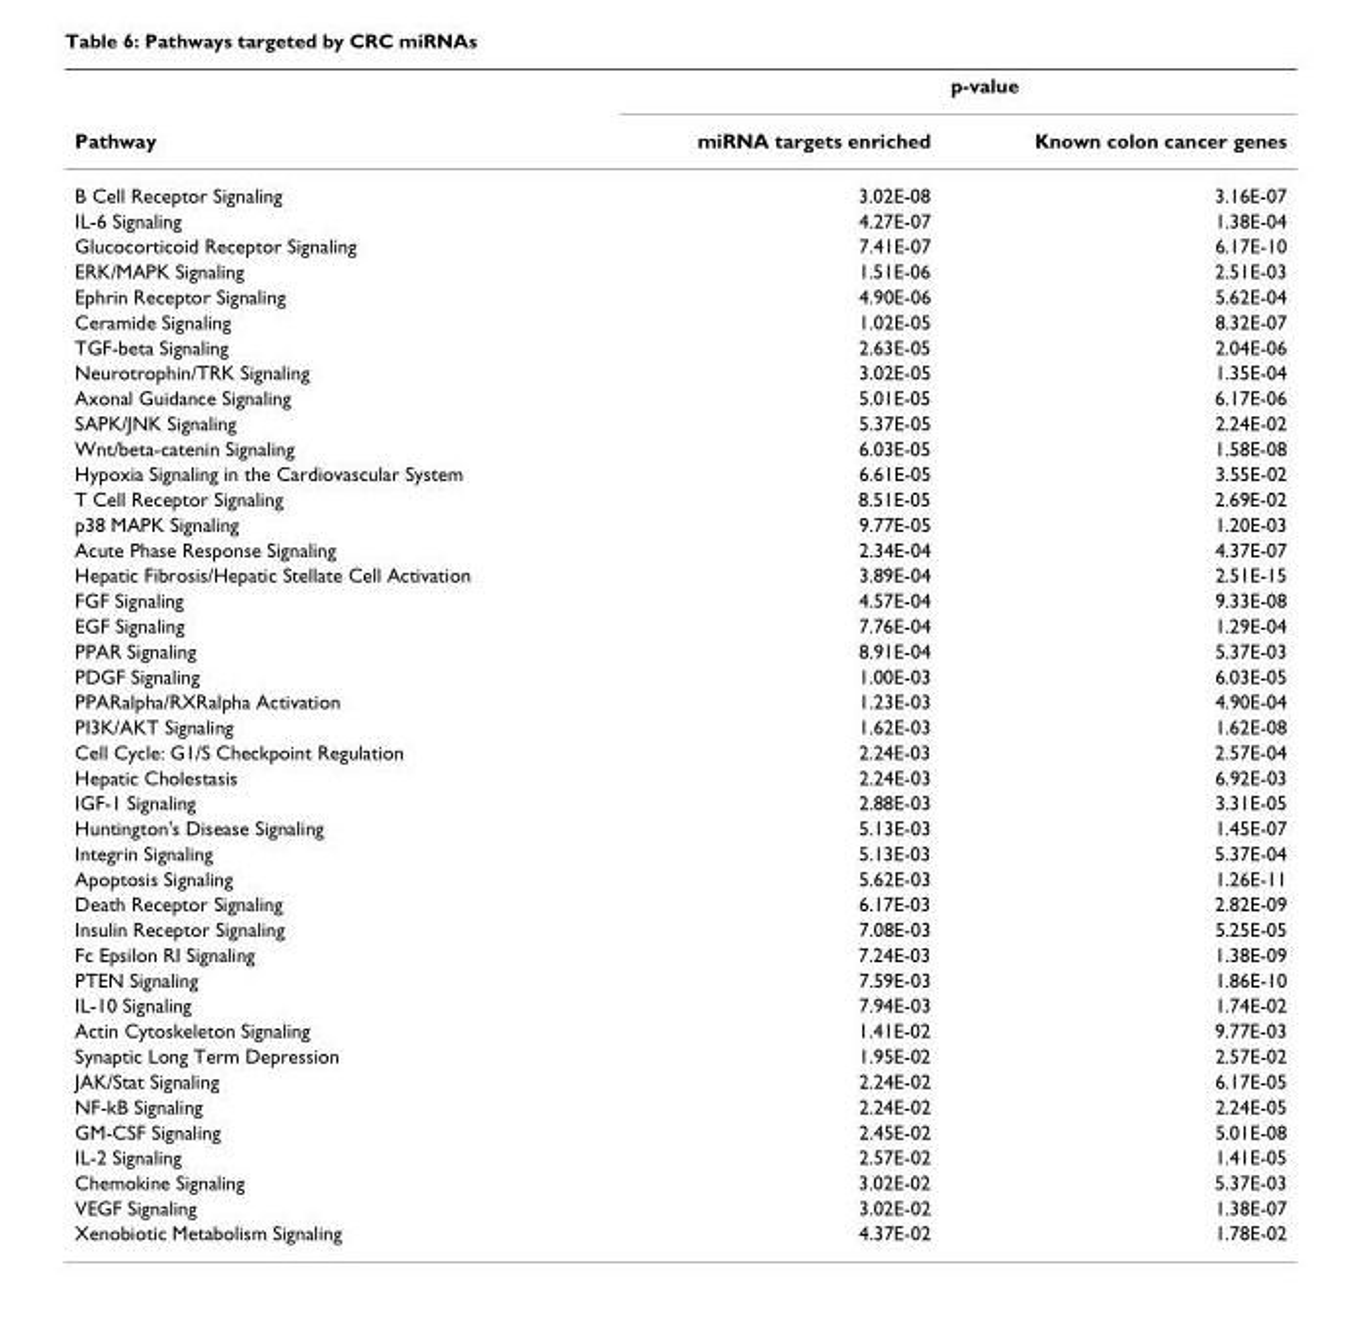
<table><thead><tr><td rowspan="2">Pathway</td><td rowspan="2">miRNA targets enriched</td><td rowspan="2">p-value Known colon cancer genes</td></tr><tr></tr></thead><tbody><tr><td>B Cell Receptor Signaling</td><td>3.02E-08</td><td>3.16E-07</td></tr><tr><td>IL-6 Signaling</td><td>4.27E-07</td><td>1.38E-04</td></tr><tr><td>Glucocorticoid Receptor Signaling</td><td>7.41E-07</td><td>6.17E-10</td></tr><tr><td>ERK/MAPK Signaling</td><td>1.51E-06</td><td>2.51E-03</td></tr><tr><td>Ephrin Receptor Signaling</td><td>4.90E-06</td><td>5.62E-04</td></tr><tr><td>Ceramide Signaling</td><td>1.02E-05</td><td>8.32E-07</td></tr><tr><td>TGF-beta Signaling</td><td>2.63E-05</td><td>2.04E-06</td></tr><tr><td>Neurotrophin/TRK Signaling</td><td>3.02E-05</td><td>1.35E-04</td></tr><tr><td>Axonal Guidance Signaling</td><td>5.01E-05</td><td>6.17E-06</td></tr><tr><td>SAPK/JNK Signaling</td><td>5.37E-05</td><td>2.24E-02</td></tr><tr><td>Wnt/beta-catenin Signaling</td><td>6.03E-05</td><td>1.58E-08</td></tr><tr><td>Hypoxia Signaling in the Cardiovascular System</td><td>6.61E-05</td><td>3.55E-02</td></tr><tr><td>T Cell Receptor Signaling</td><td>8.51E-05</td><td>2.69E-02</td></tr><tr><td>p38 MAPK Signaling</td><td>9.77E-05</td><td>1.20E-03</td></tr><tr><td>Acute Phase Response Signaling</td><td>2.34E-04</td><td>4.37E-07</td></tr><tr><td>Hepatic Fibrosis/Hepatic Stellate Cell Activation</td><td>3.89E-04</td><td>2.51E-15</td></tr><tr><td>FGF Signaling</td><td>4.57E-04</td><td>9.33E-08</td></tr><tr><td>EGF Signaling</td><td>7.76E-04</td><td>1.29E-04</td></tr><tr><td>PPAR Signaling</td><td>8.91E-04</td><td>5.37E-03</td></tr><tr><td>PDGF Signaling</td><td>1.00E-03</td><td>6.03E-05</td></tr><tr><td>PPARalpha/RXRalpha Activation</td><td>1.23E-03</td><td>4.90E-04</td></tr><tr><td>PI3K/AKT Signaling</td><td>1.62E-03</td><td>1.62E-08</td></tr><tr><td>Cell Cycle: G1/S Checkpoint Regulation</td><td>2.24E-03</td><td>2.57E-04</td></tr><tr><td>Hepatic Cholestasis</td><td>2.24E-03</td><td>6.92E-03</td></tr><tr><td>IGF-1 Signaling</td><td>2.88E-03</td><td>3.31E-05</td></tr><tr><td>Huntington&#x27;s Disease Signaling</td><td>5.13E-03</td><td>1.45E-07</td></tr><tr><td>Integrin Signaling</td><td>5.13E-03</td><td>5.37E-04</td></tr><tr><td>Apoptosis Signaling</td><td>5.62E-03</td><td>1.26E-11</td></tr><tr><td>Death Receptor Signaling</td><td>6.17E-03</td><td>2.82E-09</td></tr><tr><td>Insulin Receptor Signaling</td><td>7.08E-03</td><td>5.25E-05</td></tr><tr><td>Fc Epsilon RI Signaling</td><td>7.24E-03</td><td>1.38E-09</td></tr><tr><td>PTEN Signaling</td><td>7.59E-03</td><td>1.86E-10</td></tr><tr><td>IL-10 Signaling</td><td>7.94E-03</td><td>1.74E-02</td></tr><tr><td>Actin Cytoskeleton Signaling</td><td>1.41E-02</td><td>9.77E-03</td></tr><tr><td>Synaptic Long Term Depression</td><td>1.95E-02</td><td>2.57E-02</td></tr><tr><td>JAK/Stat Signaling</td><td>2.24E-02</td><td>6.17E-05</td></tr><tr><td>NF-kB Signaling</td><td>2.24E-02</td><td>2.24E-05</td></tr><tr><td>GM-CSF Signaling</td><td>2.45E-02</td><td>5.01E-08</td></tr><tr><td>IL-2 Signaling</td><td>2.57E-02</td><td>1.41E-05</td></tr><tr><td>Chemokine Signaling</td><td>3.02E-02</td><td>5.37E-03</td></tr><tr><td>VEGF Signaling</td><td>3.02E-02</td><td>1.38E-07</td></tr><tr><td>Xenobiotic Metabolism Signaling</td><td>4.37E-02</td><td>1.78E-02</td></tr></tbody></table>